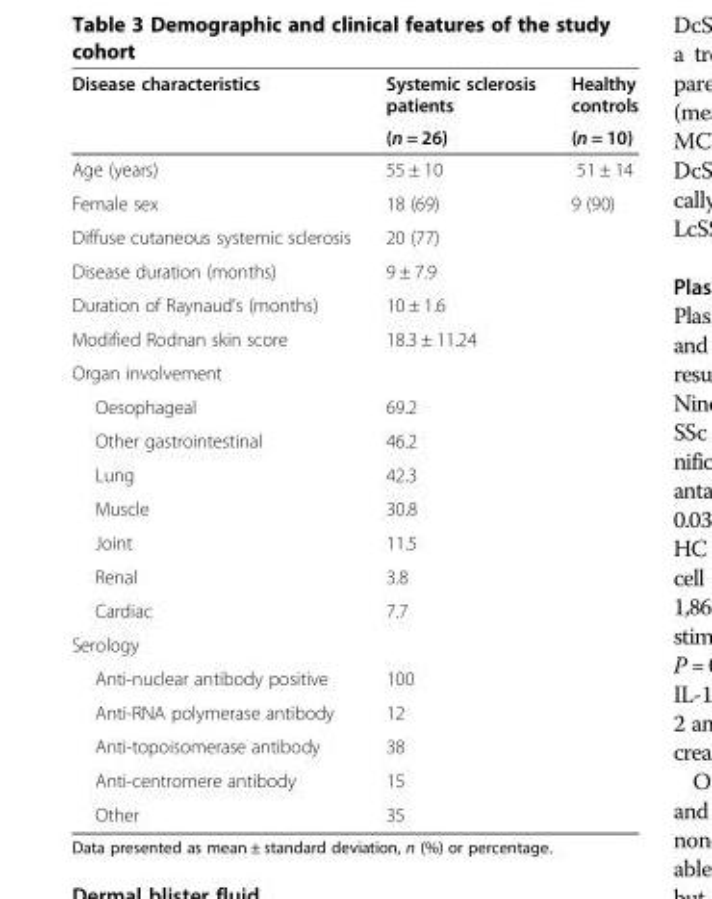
<table><thead><tr><td rowspan="2">Disease characteristics</td><td rowspan="2">Systemic sclerosis patients (n = 26)</td><td rowspan="2">Healthy controls (n = 10)</td></tr><tr></tr></thead><tbody><tr><td>Age (years)</td><td>55 ± 10</td><td>51 ± 14</td></tr><tr><td>Female sex</td><td>18 (69)</td><td>9 (90)</td></tr><tr><td>Diffuse cutaneous systemic sclerosis</td><td>20 (77)</td><td></td></tr><tr><td>Disease duration (months)</td><td>9 ± 7.9</td><td></td></tr><tr><td>Duration of Raynaud’s (months)</td><td>10 ± 1.6</td><td></td></tr><tr><td>Modified Rodnan skin score</td><td>18.3 ± 11.24</td><td></td></tr><tr><td colspan="3">Organ involvement</td></tr><tr><td>Oesophageal</td><td>69.2</td><td></td></tr><tr><td>Other gastrointestinal</td><td>46.2</td><td></td></tr><tr><td>Lung</td><td>42.3</td><td></td></tr><tr><td>Muscle</td><td>30.8</td><td></td></tr><tr><td>Joint</td><td>11.5</td><td></td></tr><tr><td>Renal</td><td>3.8</td><td></td></tr><tr><td>Cardiac</td><td>7.7</td><td></td></tr><tr><td colspan="3">Serology</td></tr><tr><td>Anti-nuclear antibody positive</td><td>100</td><td></td></tr><tr><td>Anti-RNA polymerase antibody</td><td>12</td><td></td></tr><tr><td>Anti-topoisomerase antibody</td><td>38</td><td></td></tr><tr><td>Anti-centromere antibody</td><td>15</td><td></td></tr><tr><td>Other</td><td>35</td><td></td></tr></tbody></table>